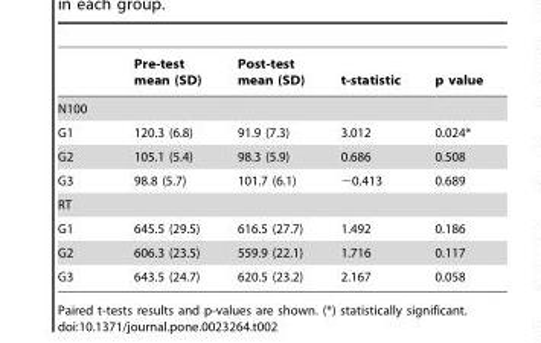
<table><thead><tr><td></td><td>Pre-test mean (SD)</td><td>Post-test mean (SD)</td><td>t-statistic</td><td>p value</td></tr></thead><tbody><tr><td colspan="5">N100</td></tr><tr><td>G1</td><td>120.3 (6.8)</td><td>91.9 (7.3)</td><td>3.012</td><td>0.024*</td></tr><tr><td>G2</td><td>105.1 (5.4)</td><td>98.3 (5.9)</td><td>0.686</td><td>0.508</td></tr><tr><td>G3</td><td>98.8 (5.7)</td><td>101.7 (6.1)</td><td>−0.413</td><td>0.689</td></tr><tr><td colspan="5">RT</td></tr><tr><td>G1</td><td>645.5 (29.5)</td><td>616.5 (27.7)</td><td>1.492</td><td>0.186</td></tr><tr><td>G2</td><td>606.3 (23.5)</td><td>559.9 (22.1)</td><td>1.716</td><td>0.117</td></tr><tr><td>G3</td><td>643.5 (24.7)</td><td>620.5 (23.2)</td><td>2.167</td><td>0.058</td></tr></tbody></table>